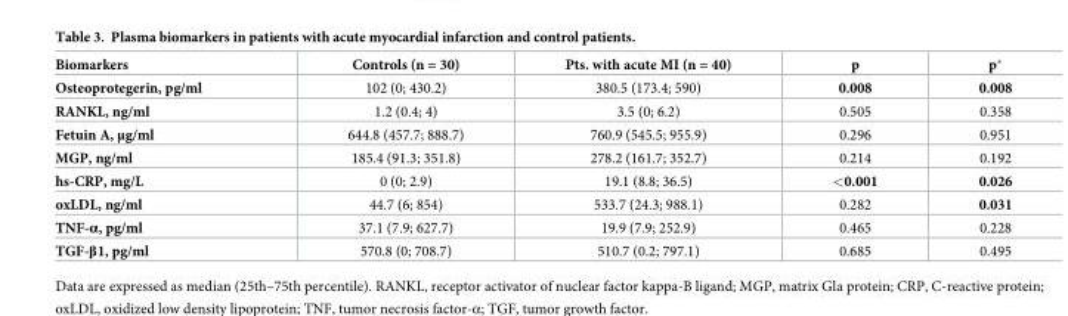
<table><thead><tr><td>Biomarkers</td><td>Controls (n = 30)</td><td>Pts. with acute MI (n = 40)</td><td>p</td><td>p*</td></tr></thead><tbody><tr><td>Osteoprotegerin, pg/ml</td><td>102 (0; 430.2)</td><td>380.5 (173.4; 590)</td><td>0.008</td><td>0.008</td></tr><tr><td>RANKL, ng/ml</td><td>1.2 (0.4; 4)</td><td>3.5 (0; 6.2)</td><td>0.505</td><td>0.358</td></tr><tr><td>Fetuin A, μg/ml</td><td>644.8 (457.7; 888.7)</td><td>760.9 (545.5; 955.9)</td><td>0.296</td><td>0.951</td></tr><tr><td>MGP, ng/ml</td><td>185.4 (91.3; 351.8)</td><td>278.2 (161.7; 352.7)</td><td>0.214</td><td>0.192</td></tr><tr><td>hs-CRP, mg/L</td><td>0 (0; 2.9)</td><td>19.1 (8.8; 36.5)</td><td>&lt;0.001</td><td>0.026</td></tr><tr><td>oxLDL, ng/ml</td><td>44.7 (6; 854)</td><td>533.7 (24.3; 988.1)</td><td>0.282</td><td>0.031</td></tr><tr><td>TNF-α, pg/ml</td><td>37.1 (7.9; 627.7)</td><td>19.9 (7.9; 252.9)</td><td>0.465</td><td>0.228</td></tr><tr><td>TGF-β1, pg/ml</td><td>570.8 (0; 708.7)</td><td>510.7 (0.2; 797.1)</td><td>0.685</td><td>0.495</td></tr></tbody></table>